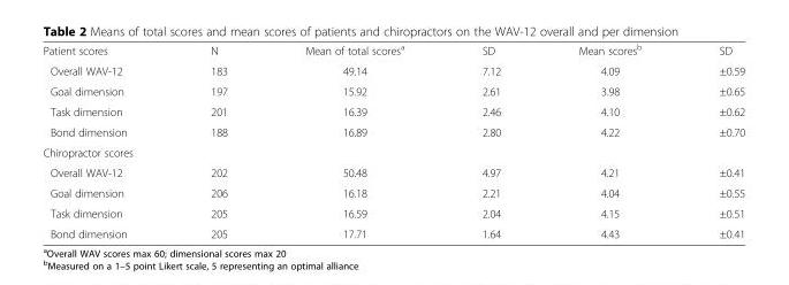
<table><tbody><tr><td>Patient scores</td><td>N</td><td>Mean of total scores<sup>a</sup></td><td>SD</td><td>Mean scores<sup>b</sup></td><td>SD</td></tr><tr><td>Overall WAV-12</td><td>183</td><td>49.14</td><td>7.12</td><td>4.09</td><td>±0.59</td></tr><tr><td>Goal dimension</td><td>197</td><td>15.92</td><td>2.61</td><td>3.98</td><td>±0.65</td></tr><tr><td>Task dimension</td><td>201</td><td>16.39</td><td>2.46</td><td>4.10</td><td>±0.62</td></tr><tr><td>Bond dimension</td><td>188</td><td>16.89</td><td>2.80</td><td>4.22</td><td>±0.70</td></tr><tr><td colspan="6">Chiropractor scores</td></tr><tr><td>Overall WAV-12</td><td>202</td><td>50.48</td><td>4.97</td><td>4.21</td><td>±0.41</td></tr><tr><td>Goal dimension</td><td>206</td><td>16.18</td><td>2.21</td><td>4.04</td><td>±0.55</td></tr><tr><td>Task dimension</td><td>205</td><td>16.59</td><td>2.04</td><td>4.15</td><td>±0.51</td></tr><tr><td>Bond dimension</td><td>205</td><td>17.71</td><td>1.64</td><td>4.43</td><td>±0.41</td></tr></tbody></table>